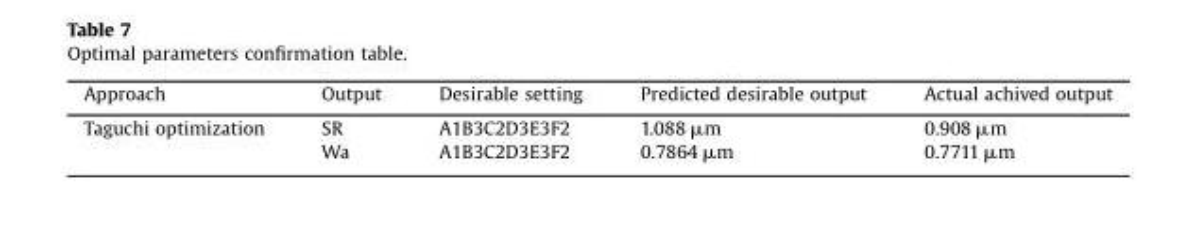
<table><thead><tr><td>Approach</td><td>Output</td><td>Desirable setting</td><td>Predicted desirable output</td><td>Actual achived output</td></tr></thead><tbody><tr><td rowspan="2">Taguchi optimization</td><td>SR</td><td>A1B3C2D3E3F2</td><td>1.088 μm</td><td>0.908 μm</td></tr><tr><td>Wa</td><td>A1B3C2D3E3F2</td><td>0.7864 μm</td><td>0.7711 μm</td></tr></tbody></table>